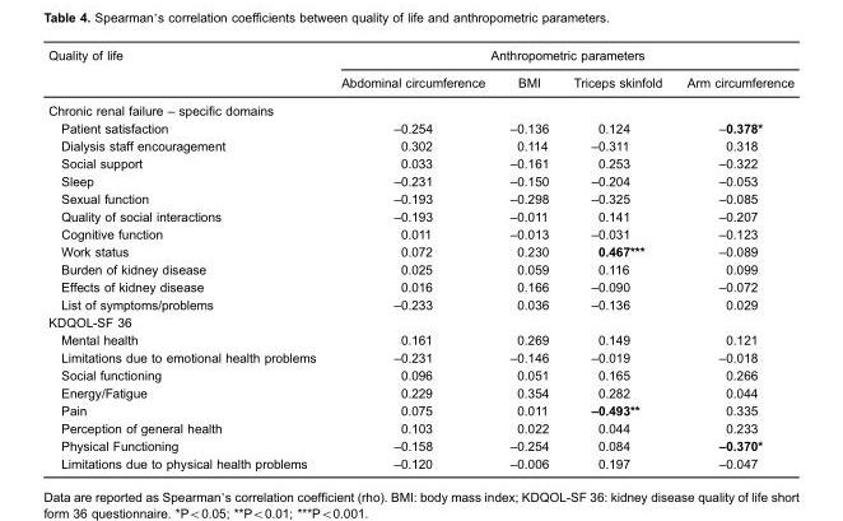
<table><thead><tr><td rowspan="2">Quality of life</td><td colspan="4">Anthropometric parameters</td></tr><tr><td>Abdominal circumference</td><td>BMI</td><td>Triceps skinfold</td><td>Arm circumference</td></tr></thead><tbody><tr><td colspan="5">Chronic renal failure – specific domains</td></tr><tr><td>Patient satisfaction</td><td>–0.254</td><td>–0.136</td><td>0.124</td><td>–0.378*</td></tr><tr><td>Dialysis staff encouragement</td><td>0.302</td><td>0.114</td><td>–0.311</td><td>0.318</td></tr><tr><td>Social support</td><td>0.033</td><td>–0.161</td><td>0.253</td><td>–0.322</td></tr><tr><td>Sleep</td><td>–0.231</td><td>–0.150</td><td>–0.204</td><td>–0.053</td></tr><tr><td>Sexual function</td><td>–0.193</td><td>–0.298</td><td>–0.325</td><td>–0.085</td></tr><tr><td>Quality of social interactions</td><td>–0.193</td><td>–0.011</td><td>0.141</td><td>–0.207</td></tr><tr><td>Cognitive function</td><td>0.011</td><td>–0.013</td><td>–0.031</td><td>–0.123</td></tr><tr><td>Work status</td><td>0.072</td><td>0.230</td><td>0.467***</td><td>–0.089</td></tr><tr><td>Burden of kidney disease</td><td>0.025</td><td>0.059</td><td>0.116</td><td>0.099</td></tr><tr><td>Effects of kidney disease</td><td>0.016</td><td>0.166</td><td>–0.090</td><td>–0.072</td></tr><tr><td>List of symptoms/problems</td><td>–0.233</td><td>0.036</td><td>–0.136</td><td>0.029</td></tr><tr><td colspan="5">KDQOL-SF 36</td></tr><tr><td>Mental health</td><td>0.161</td><td>0.269</td><td>0.149</td><td>0.121</td></tr><tr><td>Limitations due to emotional health problems</td><td>–0.231</td><td>–0.146</td><td>–0.019</td><td>–0.018</td></tr><tr><td>Social functioning</td><td>0.096</td><td>0.051</td><td>0.165</td><td>0.266</td></tr><tr><td>Energy/Fatigue</td><td>0.229</td><td>0.354</td><td>0.282</td><td>0.044</td></tr><tr><td>Pain</td><td>0.075</td><td>0.011</td><td>–0.493**</td><td>0.335</td></tr><tr><td>Perception of general health</td><td>0.103</td><td>0.022</td><td>0.044</td><td>0.233</td></tr><tr><td>Physical Functioning</td><td>–0.158</td><td>–0.254</td><td>0.084</td><td>–0.370*</td></tr><tr><td>Limitations due to physical health problems</td><td>–0.120</td><td>–0.006</td><td>0.197</td><td>–0.047</td></tr></tbody></table>